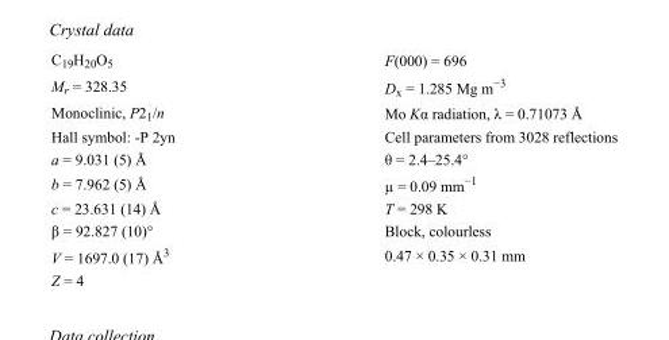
<table><tbody><tr><td>C<sub>19</sub>H<sub>20</sub>O<sub>5</sub></td><td>F(000) = 696</td></tr><tr><td>M<sub>r</sub> = 328.35</td><td>D<sub>x</sub> = 1.285 Mg m<sup>−3</sup></td></tr><tr><td>Monoclinic, P2<sub>1</sub>/n</td><td>Mo Kα radiation, λ = 0.71073 Å</td></tr><tr><td>Hall symbol: -P 2yn</td><td>Cell parameters from 3028 reflections</td></tr><tr><td>a = 9.031 (5) Å</td><td>θ = 2.4–25.4°</td></tr><tr><td>b = 7.962 (5) Å</td><td>µ = 0.09 mm<sup>−1</sup></td></tr><tr><td>c = 23.631 (14) Å</td><td>T = 298 K</td></tr><tr><td>β = 92.827 (10)°</td><td>Block, colourless</td></tr><tr><td>V = 1697.0 (17) Å<sup>3</sup></td><td>0.47 × 0.35 × 0.31 mm</td></tr><tr><td>Z = 4</td><td></td></tr></tbody></table>